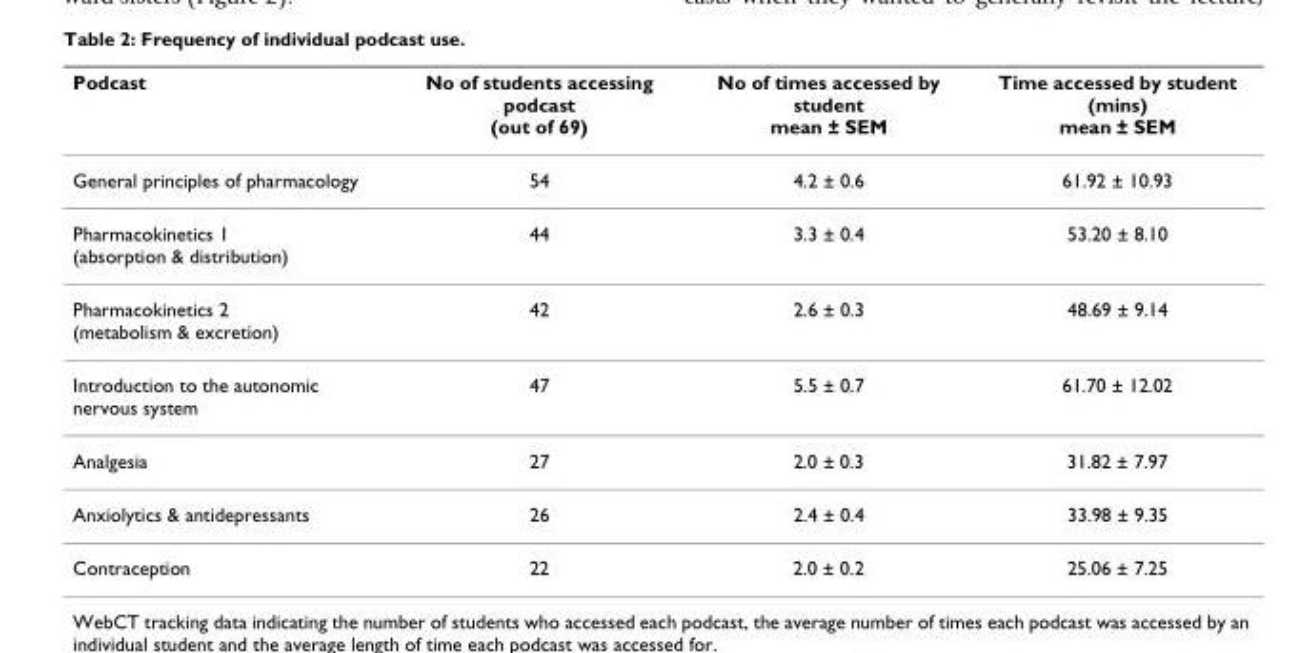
<table><thead><tr><td>Podcast</td><td>No of students accessing podcast (out of 69)</td><td>No of times accessed by student mean ± SEM</td><td>Time accessed by student (mins) mean ± SEM</td></tr></thead><tbody><tr><td>General principles of pharmacology</td><td>54</td><td>4.2 ± 0.6</td><td>61.92 ± 10.93</td></tr><tr><td>Pharmacokinetics 1 (absorption &amp; distribution)</td><td>44</td><td>3.3 ± 0.4</td><td>53.20 ± 8.10</td></tr><tr><td>Pharmacokinetics 2 (metabolism &amp; excretion)</td><td>42</td><td>2.6 ± 0.3</td><td>48.69 ± 9.14</td></tr><tr><td>Introduction to the autonomic nervous system</td><td>47</td><td>5.5 ± 0.7</td><td>61.70 ± 12.02</td></tr><tr><td>Analgesia</td><td>27</td><td>2.0 ± 0.3</td><td>31.82 ± 7.97</td></tr><tr><td>Anxiolytics &amp; antidepressants</td><td>26</td><td>2.4 ± 0.4</td><td>33.98 ± 9.35</td></tr><tr><td>Contraception</td><td>22</td><td>2.0 ± 0.2</td><td>25.06 ± 7.25</td></tr></tbody></table>